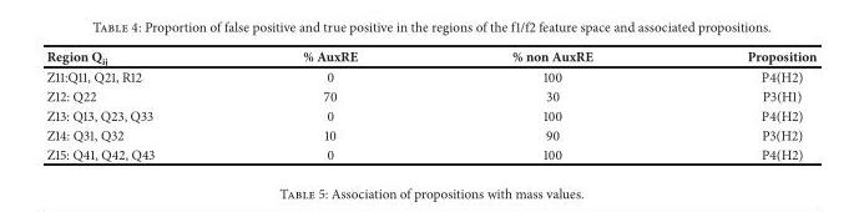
<table><thead><tr><td>Region Q<sub>ij</sub></td><td>% AuxRE</td><td>% non AuxRE</td><td>Proposition</td></tr></thead><tbody><tr><td>Z11:Q11, Q21, R12</td><td>0</td><td>100</td><td>P4(H2)</td></tr><tr><td>Z12: Q22</td><td>70</td><td>30</td><td>P3(H1)</td></tr><tr><td>Z13: Q13, Q23, Q33</td><td>0</td><td>100</td><td>P4(H2)</td></tr><tr><td>Z14: Q31, Q32</td><td>10</td><td>90</td><td>P3(H2)</td></tr><tr><td>Z15: Q41, Q42, Q43</td><td>0</td><td>100</td><td>P4(H2)</td></tr></tbody></table>